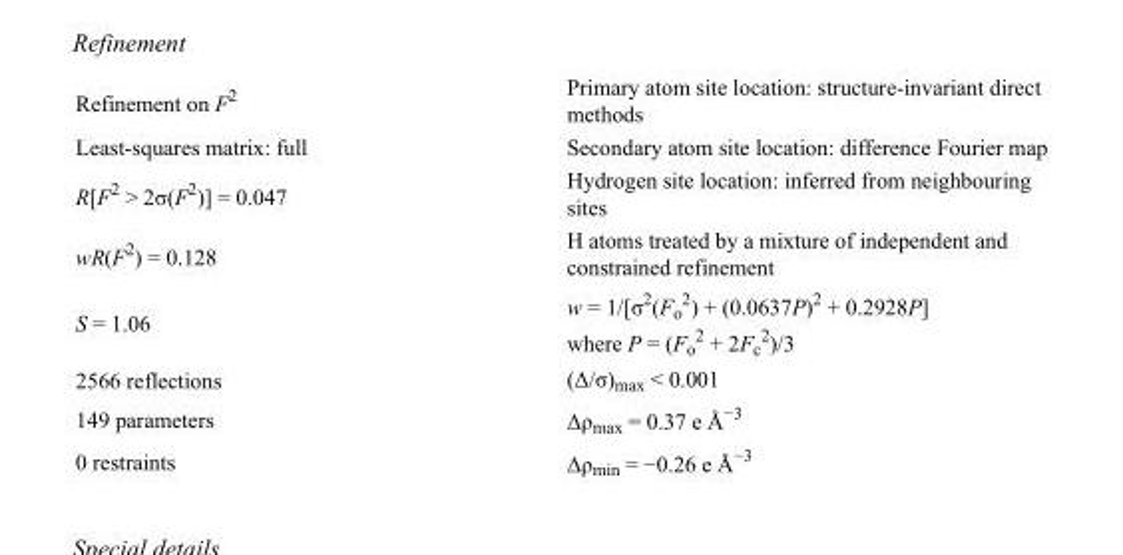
<table><tbody><tr><td>Refinement on F<sup>2</sup></td><td>Primary atom site location: structure-invariant direct methods</td></tr><tr><td>Least-squares matrix: full</td><td>Secondary atom site location: difference Fourier map</td></tr><tr><td>R[F<sup>2</sup> &gt; 2σ(F<sup>2</sup>)] = 0.047</td><td>Hydrogen site location: inferred from neighbouring sites</td></tr><tr><td>wR(F<sup>2</sup>) = 0.128</td><td>H atoms treated by a mixture of independent and constrained refinement</td></tr><tr><td>S = 1.06</td><td>w = 1/[σ<sup>2</sup>(F<sub>o</sub> <sup>2</sup>) + (0.0637P)<sup>2</sup> + 0.2928P] where P = (F<sub>o</sub> <sup>2</sup> + 2F<sub>c</sub> <sup>2</sup>)/3</td></tr><tr><td>2566 reflections</td><td>(Δ/σ)<sub>max</sub> &lt; 0.001</td></tr><tr><td>149 parameters</td><td>Δρ<sub>max</sub> = 0.37 e Å<sup>−3</sup></td></tr><tr><td>0 restraints</td><td>Δρ<sub>min</sub> = −0.26 e Å<sup>−3</sup></td></tr></tbody></table>